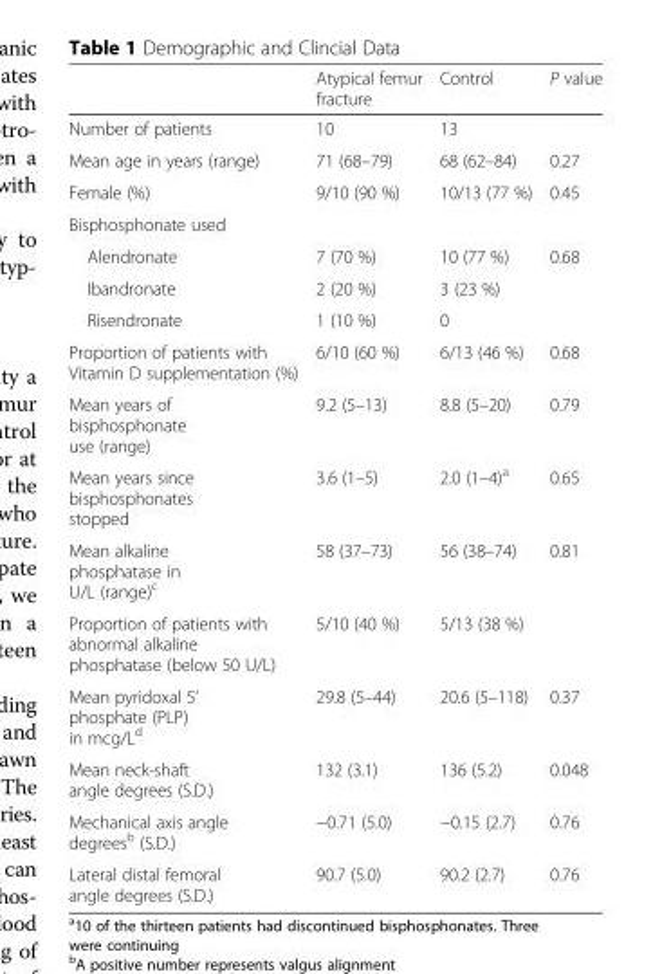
<table><thead><tr><td></td><td>Atypical femur fracture</td><td>Control</td><td>P value</td></tr></thead><tbody><tr><td>Number of patients</td><td>10</td><td>13</td><td></td></tr><tr><td>Mean age in years (range)</td><td>71 (68–79)</td><td>68 (62–84)</td><td>0.27</td></tr><tr><td>Female (%)</td><td>9/10 (90 %)</td><td>10/13 (77 %)</td><td>0.45</td></tr><tr><td colspan="4">Bisphosphonate used</td></tr><tr><td>Alendronate</td><td>7 (70 %)</td><td>10 (77 %)</td><td>0.68</td></tr><tr><td>Ibandronate</td><td>2 (20 %)</td><td>3 (23 %)</td><td></td></tr><tr><td>Risendronate</td><td>1 (10 %)</td><td>0</td><td></td></tr><tr><td>Proportion of patients with Vitamin D supplementation (%)</td><td>6/10 (60 %)</td><td>6/13 (46 %)</td><td>0.68</td></tr><tr><td>Mean years of bisphosphonate use (range)</td><td>9.2 (5–13)</td><td>8.8 (5–20)</td><td>0.79</td></tr><tr><td>Mean years since bisphosphonates stopped</td><td>3.6 (1–5)</td><td>2.0 (1–4)<sup>a</sup></td><td>0.65</td></tr><tr><td>Mean alkaline phosphatase in U/L (range)<sup>c</sup></td><td>58 (37–73)</td><td>56 (38–74)</td><td>0.81</td></tr><tr><td>Proportion of patients with abnormal alkaline phosphatase (below 50 U/L)</td><td>5/10 (40 %)</td><td>5/13 (38 %)</td><td></td></tr><tr><td>Mean pyridoxal 5’ phosphate (PLP) in mcg/L<sup>d</sup></td><td>29.8 (5–44)</td><td>20.6 (5–118)</td><td>0.37</td></tr><tr><td>Mean neck-shaft angle degrees (S.D.)</td><td>132 (3.1)</td><td>136 (5.2)</td><td>0.048</td></tr><tr><td>Mechanical axis angle degrees<sup>b</sup> (S.D.)</td><td>−0.71 (5.0)</td><td>−0.15 (2.7)</td><td>0.76</td></tr><tr><td>Lateral distal femoral angle degrees (S.D.)</td><td>90.7 (5.0)</td><td>90.2 (2.7)</td><td>0.76</td></tr></tbody></table>